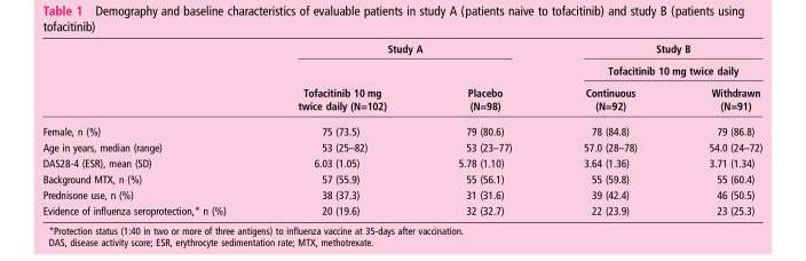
<table><thead><tr><td rowspan="3"></td><td colspan="2">Study A</td><td rowspan="2" colspan="2">Study B Tofacitinib 10 mg twice daily</td></tr><tr><td rowspan="2">Tofacitinib 10 mg twice daily (N=102)</td><td rowspan="2">Placebo (N=98)</td></tr><tr><td>Continuous (N=92)</td><td>Withdrawn (N=91)</td></tr></thead><tbody><tr><td>Female, n (%)</td><td>75 (73.5)</td><td>79 (80.6)</td><td>78 (84.8)</td><td>79 (86.8)</td></tr><tr><td>Age in years, median (range)</td><td>53 (25–82)</td><td>53 (23–77)</td><td>57.0 (28–78)</td><td>54.0 (24–72)</td></tr><tr><td>DAS28-4 (ESR), mean (SD)</td><td>6.03 (1.05)</td><td>5.78 (1.10)</td><td>3.64 (1.36)</td><td>3.71 (1.34)</td></tr><tr><td>Background MTX, n (%)</td><td>57 (55.9)</td><td>55 (56.1)</td><td>55 (59.8)</td><td>55 (60.4)</td></tr><tr><td>Prednisone use, n (%)</td><td>38 (37.3)</td><td>31 (31.6)</td><td>39 (42.4)</td><td>46 (50.5)</td></tr><tr><td>Evidence of influenza seroprotection,* n (%)</td><td>20 (19.6)</td><td>32 (32.7)</td><td>22 (23.9)</td><td>23 (25.3)</td></tr></tbody></table>